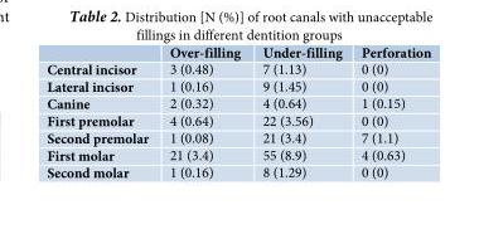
<table><thead><tr><td></td><td>Over-filling</td><td>Under-filling</td><td>Perforation</td></tr></thead><tbody><tr><td>Central incisor</td><td>3 (0.48)</td><td>7 (1.13)</td><td>0 (0)</td></tr><tr><td>Lateral incisor</td><td>1 (0.16)</td><td>9 (1.45)</td><td>0 (0)</td></tr><tr><td>Canine</td><td>2 (0.32)</td><td>4 (0.64)</td><td>1 (0.15)</td></tr><tr><td>First premolar</td><td>4 (0.64)</td><td>22 (3.56)</td><td>0 (0)</td></tr><tr><td>Second premolar</td><td>1 (0.08)</td><td>21 (3.4)</td><td>7 (1.1)</td></tr><tr><td>First molar</td><td>21 (3.4)</td><td>55 (8.9)</td><td>4 (0.63)</td></tr><tr><td>Second molar</td><td>1 (0.16)</td><td>8 (1.29)</td><td>0 (0)</td></tr></tbody></table>